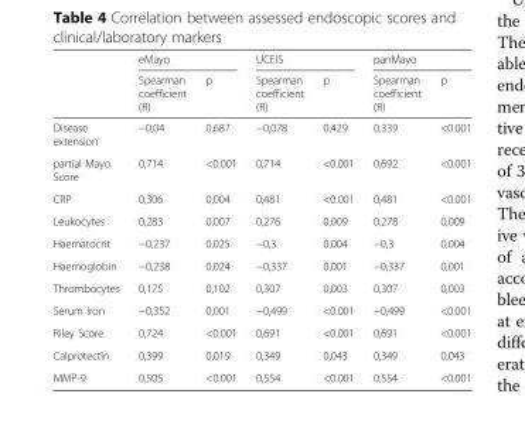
<table><thead><tr><td rowspan="2"></td><td colspan="2">eMayo</td><td colspan="2">UCEIS</td><td colspan="2">panMayo</td></tr><tr><td>Spearman coefficient (R)</td><td>p</td><td>Spearman coefficient (R)</td><td>p</td><td>Spearman coefficient (R)</td><td>p</td></tr></thead><tbody><tr><td>Disease extension</td><td>−0,04</td><td>0,687</td><td>−0,078</td><td>0,429</td><td>0,339</td><td>&lt;0.001</td></tr><tr><td>partial Mayo Score</td><td>0,714</td><td>&lt;0.001</td><td>0,714</td><td>&lt;0.001</td><td>0,692</td><td>&lt;0.001</td></tr><tr><td>CRP</td><td>0,306</td><td>0,004</td><td>0,481</td><td>&lt;0.001</td><td>0,481</td><td>&lt;0.001</td></tr><tr><td>Leukocytes</td><td>0,283</td><td>0,007</td><td>0,276</td><td>0,009</td><td>0,278</td><td>0,009</td></tr><tr><td>Haematocrit</td><td>−0,237</td><td>0,025</td><td>−0,3</td><td>0,004</td><td>−0,3</td><td>0,004</td></tr><tr><td>Haemoglobin</td><td>−0,238</td><td>0,024</td><td>−0,337</td><td>0,001</td><td>−0,337</td><td>0,001</td></tr><tr><td>Thrombocytes</td><td>0,175</td><td>0,102</td><td>0,307</td><td>0,003</td><td>0,307</td><td>0,003</td></tr><tr><td>Serum Iron</td><td>−0,352</td><td>0,001</td><td>−0,499</td><td>&lt;0.001</td><td>−0,499</td><td>&lt;0.001</td></tr><tr><td>Riley Score</td><td>0,724</td><td>&lt;0.001</td><td>0,691</td><td>&lt;0.001</td><td>0,691</td><td>&lt;0.001</td></tr><tr><td>Calprotectin</td><td>0,399</td><td>0,019</td><td>0,349</td><td>0,043</td><td>0,349</td><td>0,043</td></tr><tr><td>MMP-9</td><td>0,505</td><td>&lt;0.001</td><td>0,554</td><td>&lt;0.001</td><td>0,554</td><td>&lt;0.001</td></tr></tbody></table>